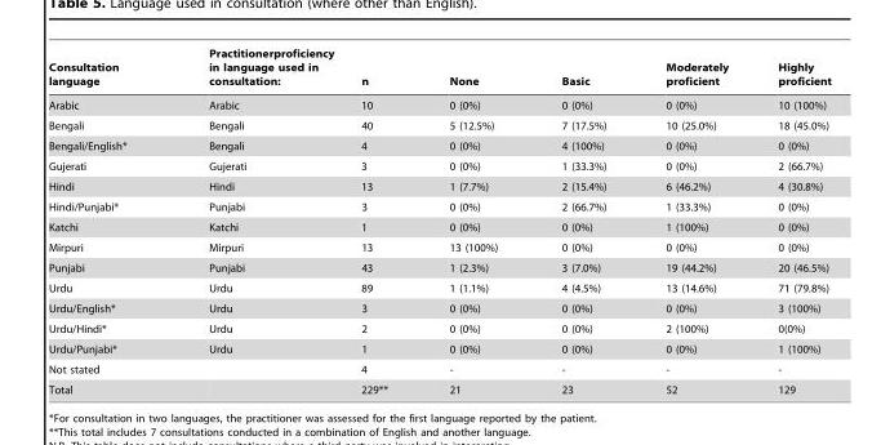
<table><thead><tr><td>Consultation language</td><td>Practitionerproficiency in language used in consultation:</td><td>n</td><td>None</td><td>Basic</td><td>Moderately proficient</td><td>Highly proficient</td></tr></thead><tbody><tr><td>Arabic</td><td>Arabic</td><td>10</td><td>0 (0%)</td><td>0 (0%)</td><td>0 (0%)</td><td>10 (100%)</td></tr><tr><td>Bengali</td><td>Bengali</td><td>40</td><td>5 (12.5%)</td><td>7 (17.5%)</td><td>10 (25.0%)</td><td>18 (45.0%)</td></tr><tr><td>Bengali/English*</td><td>Bengali</td><td>4</td><td>0 (0%)</td><td>4 (100%)</td><td>0 (0%)</td><td>0 (0%)</td></tr><tr><td>Gujerati</td><td>Gujerati</td><td>3</td><td>0 (0%)</td><td>1 (33.3%)</td><td>0 (0%)</td><td>2 (66.7%)</td></tr><tr><td>Hindi</td><td>Hindi</td><td>13</td><td>1 (7.7%)</td><td>2 (15.4%)</td><td>6 (46.2%)</td><td>4 (30.8%)</td></tr><tr><td>Hindi/Punjabi*</td><td>Punjabi</td><td>3</td><td>0 (0%)</td><td>2 (66.7%)</td><td>1 (33.3%)</td><td>0 (0%)</td></tr><tr><td>Katchi</td><td>Katchi</td><td>1</td><td>0 (0%)</td><td>0 (0%)</td><td>1 (100%)</td><td>0 (0%)</td></tr><tr><td>Mirpuri</td><td>Mirpuri</td><td>13</td><td>13 (100%)</td><td>0 (0%)</td><td>0 (0%)</td><td>0 (0%)</td></tr><tr><td>Punjabi</td><td>Punjabi</td><td>43</td><td>1 (2.3%)</td><td>3 (7.0%)</td><td>19 (44.2%)</td><td>20 (46.5%)</td></tr><tr><td>Urdu</td><td>Urdu</td><td>89</td><td>1 (1.1%)</td><td>4 (4.5%)</td><td>13 (14.6%)</td><td>71 (79.8%)</td></tr><tr><td>Urdu/English*</td><td>Urdu</td><td>3</td><td>0 (0%)</td><td>0 (0%)</td><td>0 (0%)</td><td>3 (100%)</td></tr><tr><td>Urdu/Hindi*</td><td>Urdu</td><td>2</td><td>0 (0%)</td><td>0 (0%)</td><td>2 (100%)</td><td>0(0%)</td></tr><tr><td>Urdu/Punjabi*</td><td>Urdu</td><td>1</td><td>0 (0%)</td><td>0 (0%)</td><td>0 (0%)</td><td>1 (100%)</td></tr><tr><td>Not stated</td><td></td><td>4</td><td>-</td><td>-</td><td>-</td><td>-</td></tr><tr><td>Total</td><td></td><td>229**</td><td>21</td><td>23</td><td>52</td><td>129</td></tr></tbody></table>